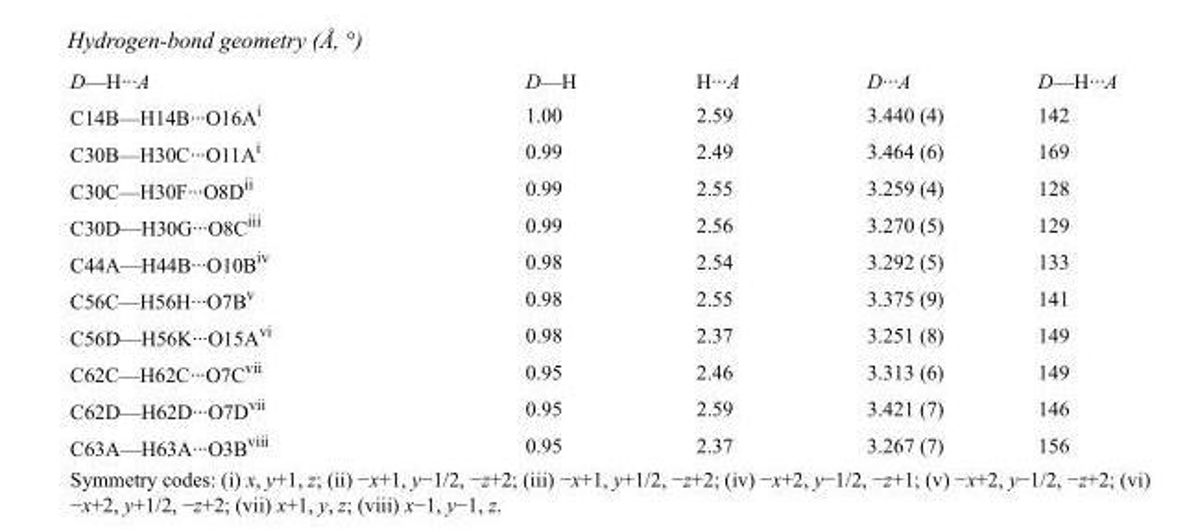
<table><tbody><tr><td>D—H···A</td><td>D—H</td><td>H···A</td><td>D···A</td><td>D—H···A</td></tr><tr><td>C14B—H14B···O16A<sup>i</sup></td><td>1.00</td><td>2.59</td><td>3.440 (4)</td><td>142</td></tr><tr><td>C30B—H30C···O11A<sup>i</sup></td><td>0.99</td><td>2.49</td><td>3.464 (6)</td><td>169</td></tr><tr><td>C30C—H30F···O8D<sup>ii</sup></td><td>0.99</td><td>2.55</td><td>3.259 (4)</td><td>128</td></tr><tr><td>C30D—H30G···O8C<sup>iii</sup></td><td>0.99</td><td>2.56</td><td>3.270 (5)</td><td>129</td></tr><tr><td>C44A—H44B···O10B<sup>iv</sup></td><td>0.98</td><td>2.54</td><td>3.292 (5)</td><td>133</td></tr><tr><td>C56C—H56H···O7B<sup>v</sup></td><td>0.98</td><td>2.55</td><td>3.375 (9)</td><td>141</td></tr><tr><td>C56D—H56K···O15A<sup>vi</sup></td><td>0.98</td><td>2.37</td><td>3.251 (8)</td><td>149</td></tr><tr><td>C62C—H62C···O7C<sup>vii</sup></td><td>0.95</td><td>2.46</td><td>3.313 (6)</td><td>149</td></tr><tr><td>C62D—H62D···O7D<sup>vii</sup></td><td>0.95</td><td>2.59</td><td>3.421 (7)</td><td>146</td></tr><tr><td>C63A—H63A···O3B<sup>viii</sup></td><td>0.95</td><td>2.37</td><td>3.267 (7)</td><td>156</td></tr></tbody></table>